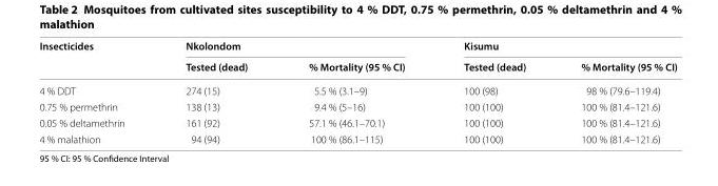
<table><thead><tr><td rowspan="2">Insecticides</td><td colspan="2">Nkolondom</td><td colspan="2">Kisumu</td></tr><tr><td>Tested (dead)</td><td>% Mortality (95 % CI)</td><td>Tested (dead)</td><td>% Mortality (95 % CI)</td></tr></thead><tbody><tr><td>4 % DDT</td><td>274 (15)</td><td>5.5 % (3.1–9)</td><td>100 (98)</td><td>98 % (79.6–119.4)</td></tr><tr><td>0.75 % permethrin</td><td>138 (13)</td><td>9.4 % (5–16)</td><td>100 (100)</td><td>100 % (81.4–121.6)</td></tr><tr><td>0.05 % deltamethrin</td><td>161 (92)</td><td>57.1 % (46.1–70.1)</td><td>100 (100)</td><td>100 % (81.4–121.6)</td></tr><tr><td>4 % malathion</td><td>94 (94)</td><td>100 % (86.1–115)</td><td>100 (100)</td><td>100 % (81.4–121.6)</td></tr></tbody></table>